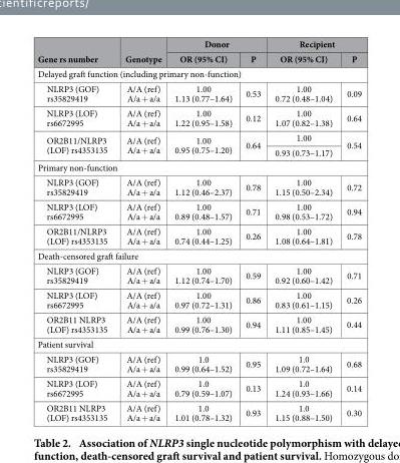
<table><thead><tr><td rowspan="2">Gene rs number</td><td rowspan="2">Genotype</td><td colspan="2">Donor</td><td colspan="2">Recipient</td></tr><tr><td>OR (95% CI)</td><td>P</td><td>OR (95% CI)</td><td>P</td></tr></thead><tbody><tr><td colspan="6">Delayed graft function (including primary non-function)</td></tr><tr><td>NLRP3 (GOF) rs35829419</td><td>A/A (ref) A/a + a/a</td><td>1.00 1.13 (0.77–1.64)</td><td>0.53</td><td>1.00 0.72 (0.48–1.04)</td><td>0.09</td></tr><tr><td>NLRP3 (LOF) rs6672995</td><td>A/A (ref) A/a + a/a</td><td>1.00 1.22 (0.95–1.58)</td><td>0.12</td><td>1.00 1.07 (0.82–1.38)</td><td>0.64</td></tr><tr><td rowspan="2">OR2B11/NLRP3 (LOF) rs4353135</td><td rowspan="2">A/A (ref) A/a + a/a</td><td rowspan="2">1.00 0.95 (0.75–1.20)</td><td rowspan="2">0.64</td><td>1.00</td><td rowspan="2">0.54</td></tr><tr><td>0.93 (0.73–1.17)</td></tr><tr><td colspan="6">Primary non-function</td></tr><tr><td>NLRP3 (GOF) rs35829419</td><td>A/A (ref) A/a + a/a</td><td>1.00 1.12 (0.46–2.37)</td><td>0.78</td><td>1.00 1.15 (0.50–2.34)</td><td>0.72</td></tr><tr><td>NLRP3 (LOF) rs6672995</td><td>A/A (ref) A/a + a/a</td><td>1.00 0.89 (0.48–1.57)</td><td>0.71</td><td>1.00 0.98 (0.53–1.72)</td><td>0.94</td></tr><tr><td>OR2B11/NLRP3 (LOF) rs4353135</td><td>A/A (ref) A/a + a/a</td><td>1.00 0.74 (0.44–1.25)</td><td>0.26</td><td>1.00 1.08 (0.64–1.81)</td><td>0.78</td></tr><tr><td colspan="6">Death-censored graft failure</td></tr><tr><td>NLRP3 (GOF) rs35829419</td><td>A/A (ref) A/a + a/a</td><td>1.00 1.12 (0.74–1.70)</td><td>0.59</td><td>1.00 0.92 (0.60–1.42)</td><td>0.71</td></tr><tr><td>NLRP3 (LOF) rs6672995</td><td>A/A (ref) A/a + a/a</td><td>1.00 0.97 (0.72–1.31)</td><td>0.86</td><td>1.00 0.83 (0.61–1.15)</td><td>0.26</td></tr><tr><td>OR2B11 NLRP3 (LOF) rs4353135</td><td>A/A (ref) A/a + a/a</td><td>1.00 0.99 (0.76–1.30)</td><td>0.94</td><td>1.00 1.11 (0.85–1.45)</td><td>0.44</td></tr><tr><td colspan="6">Patient survival</td></tr><tr><td>NLRP3 (GOF) rs35829419</td><td>A/A (ref) A/a + a/a</td><td>1.0 0.99 (0.64–1.52)</td><td>0.95</td><td>1.0 1.09 (0.72–1.64)</td><td>0.68</td></tr><tr><td>NLRP3 (LOF) rs6672995</td><td>A/A (ref) A/a + a/a</td><td>1.0 0.79 (0.59–1.07)</td><td>0.13</td><td>1.0 1.24 (0.93–1.66)</td><td>0.14</td></tr><tr><td>OR2B11 NLRP3 (LOF) rs4353135</td><td>A/A (ref) A/a + a/a</td><td>1.0 1.01 (0.78–1.32)</td><td>0.93</td><td>1.0 1.15 (0.88–1.50)</td><td>0.30</td></tr></tbody></table>